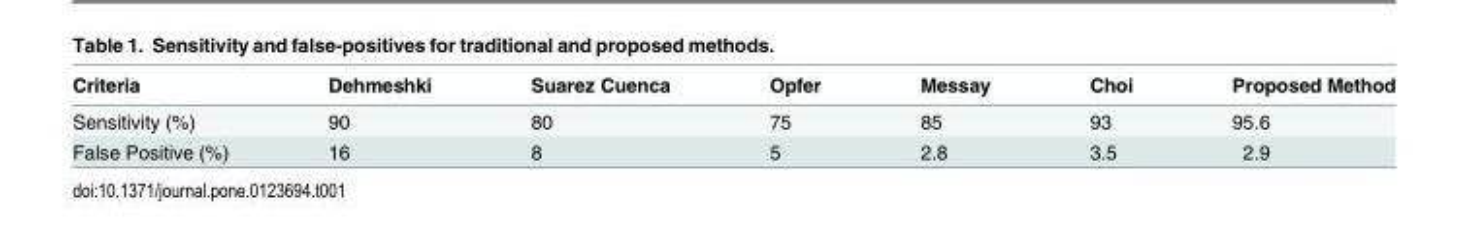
<table><thead><tr><td>Criteria</td><td>Dehmeshki</td><td>Suarez Cuenca</td><td>Opfer</td><td>Messay</td><td>Choi</td><td>Proposed Method</td></tr></thead><tbody><tr><td>Sensitivity (%)</td><td>90</td><td>80</td><td>75</td><td>85</td><td>93</td><td>95.6</td></tr><tr><td>False Positive (%)</td><td>16</td><td>8</td><td>5</td><td>2.8</td><td>3.5</td><td>2.9</td></tr></tbody></table>